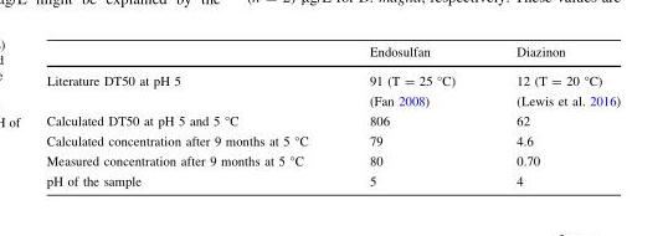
<table><thead><tr><td></td><td>Endosulfan</td><td>Diazinon</td></tr></thead><tbody><tr><td>Literature DT50 at pH 5</td><td>91 (T = 25 °C) (Fan 2008)</td><td>12 (T = 20 °C) (Lewis et al. 2016)</td></tr><tr><td>Calculated DT50 at pH 5 and 5 °C</td><td>806</td><td>62</td></tr><tr><td>Calculated concentration after 9 months at 5 °C</td><td>79</td><td>4.6</td></tr><tr><td>Measured concentration after 9 months at 5 °C</td><td>80</td><td>0.70</td></tr><tr><td>pH of the sample</td><td>5</td><td>4</td></tr></tbody></table>